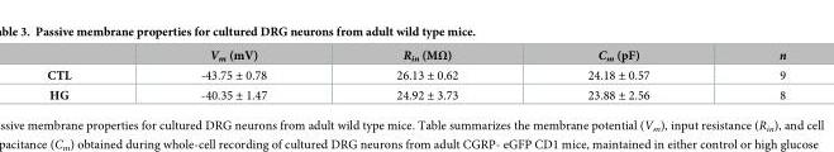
<table><thead><tr><td></td><td>V<sub>m</sub> (mV)</td><td>R<sub>in</sub> (MΩ)</td><td>C<sub>m</sub> (pF)</td><td>n</td></tr></thead><tbody><tr><td>CTL</td><td>-43.75 ± 0.78</td><td>26.13 ± 0.62</td><td>24.18 ± 0.57</td><td>9</td></tr><tr><td>HG</td><td>-40.35 ± 1.47</td><td>24.92 ± 3.73</td><td>23.88 ± 2.56</td><td>8</td></tr></tbody></table>